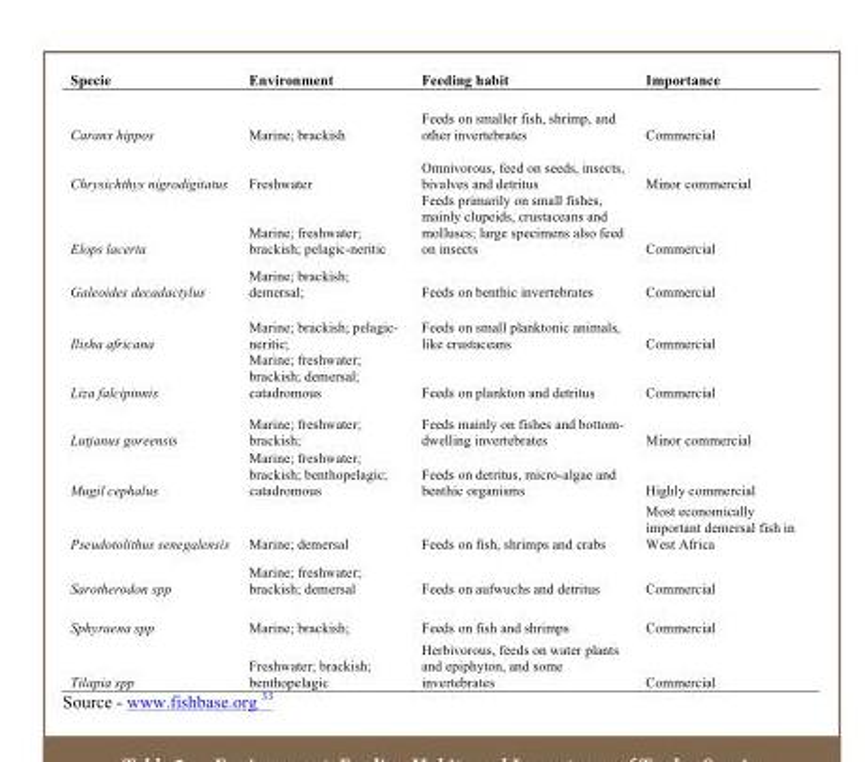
<table><thead><tr><td>Specie</td><td>Environment</td><td>Feeding habit</td><td>Importance</td></tr></thead><tbody><tr><td>Caranx hippos</td><td>Marine; brackish</td><td>Feeds on smaller fish, shrimp, and other invertebrates</td><td>Commercial</td></tr><tr><td>Chrysichthys nigrodigitatus</td><td>Freshwater</td><td>Omnivorous, feed on seeds, insects, bivalves and detritus</td><td>Minor commercial</td></tr><tr><td>Elops lacerta</td><td>Marine; freshwater; brackish; pelagic-neritic</td><td>Feeds primarily on small fishes, mainly clupeids, crustaceans and molluscs; large specimens also feed on insects</td><td>Commercial</td></tr><tr><td>Galeoides decadactylus</td><td>Marine; brackish; demersal;</td><td>Feeds on benthic invertebrates</td><td>Commercial</td></tr><tr><td>Ilisha africana</td><td>Marine; brackish; pelagic- neritic;</td><td>Feeds on small planktonic animals, like crustaceans</td><td>Commercial</td></tr><tr><td>Liza falcipinnis</td><td>Marine; freshwater; brackish; demersal; catadromous</td><td>Feeds on plankton and detritus</td><td>Commercial</td></tr><tr><td>Lutjanus goreensis</td><td>Marine; freshwater; brackish;</td><td>Feeds mainly on fishes and bottom- dwelling invertebrates</td><td>Minor commercial</td></tr><tr><td>Mugil cephalus</td><td>Marine; freshwater; brackish; benthopelagic; catadromous</td><td>Feeds on detritus, micro-algae and benthic organisms</td><td>Highly commercial</td></tr><tr><td>Pseudotolithus senegalensis</td><td>Marine; demersal</td><td>Feeds on fish, shrimps and crabs</td><td>Most economically important demersal fish in West Africa</td></tr><tr><td>Sarotherodon spp</td><td>Marine; freshwater; brackish; demersal</td><td>Feeds on aufwuchs and detritus</td><td>Commercial</td></tr><tr><td>Sphyraena spp</td><td>Marine; brackish;</td><td>Feeds on fish and shrimps</td><td>Commercial</td></tr><tr><td>Tilapia spp</td><td>Freshwater; brackish; benthopelagic</td><td>Herbivorous, feeds on water plants and epiphyton, and some invertebrates</td><td>Commercial</td></tr></tbody></table>